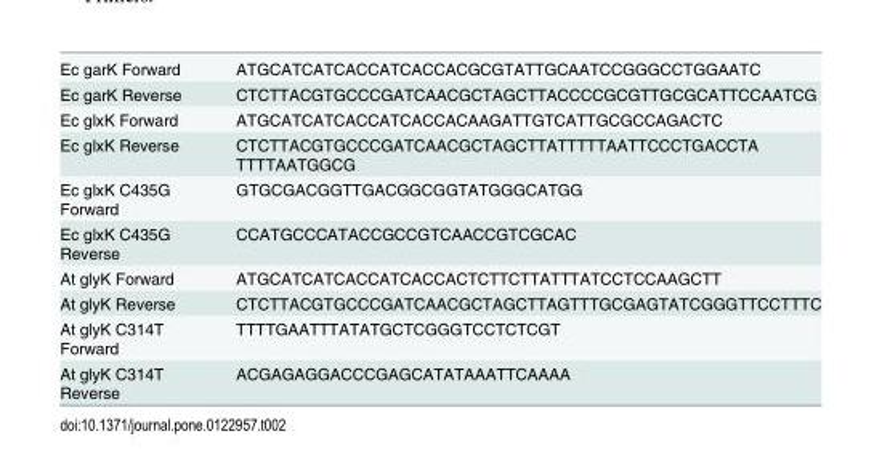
<table><tbody><tr><td>Ec garK Forward</td><td>ATGCATCATCACCATCACCACGCGTATTGCAATCCGGGCCTGGAATC</td></tr><tr><td>Ec garK Reverse</td><td>CTCTTACGTGCCCGATCAACGCTAGCTTACCCCGCGTTGCGCATTCCAATCG</td></tr><tr><td>Ec glxK Forward</td><td>ATGCATCATCACCATCACCACAAGATTGTCATTGCGCCAGACTC</td></tr><tr><td>Ec glxK Reverse</td><td>CTCTTACGTGCCCGATCAACGCTAGCTTATTTTTAATTCCCTGACCTA TTTTAATGGCG</td></tr><tr><td>Ec glxK C435G Forward</td><td>GTGCGACGGTTGACGGCGGTATGGGCATGG</td></tr><tr><td>Ec glxK C435G Reverse</td><td>CCATGCCCATACCGCCGTCAACCGTCGCAC</td></tr><tr><td>At glyK Forward</td><td>ATGCATCATCACCATCACCACTCTTCTTATTTATCCTCCAAGCTT</td></tr><tr><td>At glyK Reverse</td><td>CTCTTACGTGCCCGATCAACGCTAGCTTAGTTTGCGAGTATCGGGTTCCTTTC</td></tr><tr><td>At glyK C314T Forward</td><td>TTTTGAATTTATATGCTCGGGTCCTCTCGT</td></tr><tr><td>At glyK C314T Reverse</td><td>ACGAGAGGACCCGAGCATATAAATTCAAAA</td></tr></tbody></table>